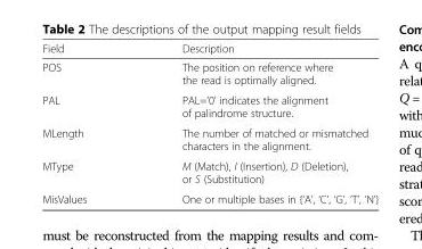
<table><thead><tr><td>Field</td><td>Description</td></tr></thead><tbody><tr><td>POS</td><td>The position on reference where the read is optimally aligned.</td></tr><tr><td>PAL</td><td>PAL=’0’ indicates the alignment of palindrome structure.</td></tr><tr><td>MLength</td><td>The number of matched or mismatched characters in the alignment.</td></tr><tr><td>MType</td><td>M (Match), I (Insertion), D (Deletion), or S (Substitution)</td></tr><tr><td>MisValues</td><td>One or multiple bases in {‘A’, ‘C’, ‘G’, ‘T’, ‘N’}</td></tr></tbody></table>